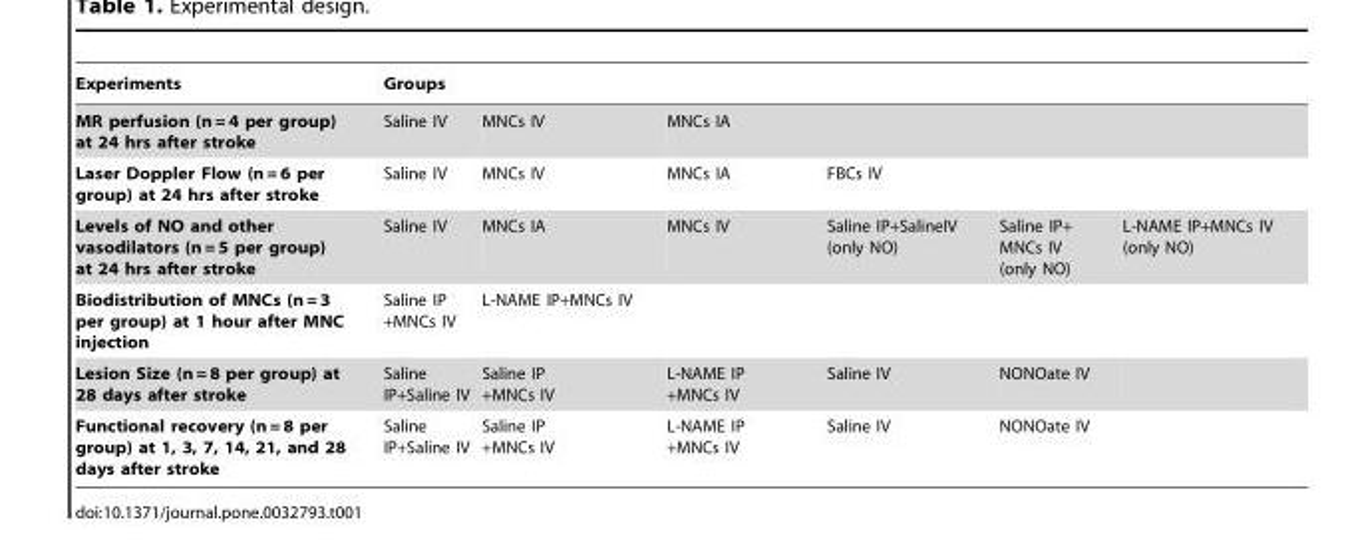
<table><thead><tr><td rowspan="4">Experiments MR perfusion (n = 4 per group) at 24 hrs after stroke Laser Doppler Flow (n = 6 per group) at 24 hrs after stroke Levels of NO and other vasodilators (n = 5 per group) at 24 hrs after stroke</td><td colspan="6">Groups</td></tr><tr><td rowspan="3">Saline IV Saline IV Saline IV</td><td rowspan="3">MNCs IV MNCs IV MNCs IA</td><td rowspan="3">MNCs IA MNCs IA MNCs IV</td><td colspan="3"></td></tr><tr><td rowspan="2">FBCs IV Saline IP+SalineIV (only NO)</td><td colspan="2"></td></tr><tr><td>Saline IP+ MNCs IV (only NO)</td><td>L-NAME IP+MNCs IV (only NO)</td></tr></thead><tbody><tr><td>Biodistribution of MNCs (n = 3 per group) at 1 hour after MNC injection</td><td>Saline IP +MNCs IV</td><td>L-NAME IP+MNCs IV</td><td colspan="4"></td></tr><tr><td>Lesion Size (n = 8 per group) at 28 days after stroke</td><td>Saline IP+Saline IV</td><td>Saline IP +MNCs IV</td><td>L-NAME IP +MNCs IV</td><td>Saline IV</td><td>NONOate IV</td><td></td></tr><tr><td>Functional recovery (n = 8 per group) at 1, 3, 7, 14, 21, and 28 days after stroke</td><td>Saline IP+Saline IV</td><td>Saline IP +MNCs IV</td><td>L-NAME IP +MNCs IV</td><td>Saline IV</td><td>NONOate IV</td><td></td></tr></tbody></table>